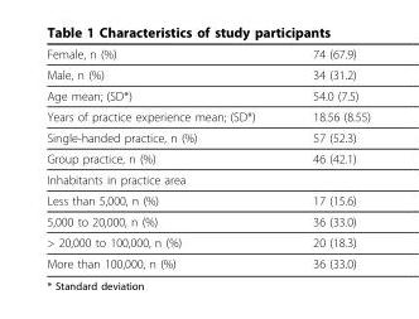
<table><thead><tr><td>Female, n (%)</td><td>74 (67.9)</td></tr></thead><tbody><tr><td>Male, n (%)</td><td>34 (31.2)</td></tr><tr><td>Age mean; (SD*)</td><td>54.0 (7.5)</td></tr><tr><td>Years of practice experience mean; (SD*)</td><td>18.56 (8.55)</td></tr><tr><td>Single-handed practice, n (%)</td><td>57 (52.3)</td></tr><tr><td>Group practice, n (%)</td><td>46 (42.1)</td></tr><tr><td colspan="2">Inhabitants in practice area</td></tr><tr><td>Less than 5,000, n (%)</td><td>17 (15.6)</td></tr><tr><td>5,000 to 20,000, n (%)</td><td>36 (33.0)</td></tr><tr><td>&gt; 20,000 to 100,000, n (%)</td><td>20 (18.3)</td></tr><tr><td>More than 100,000, n (%)</td><td>36 (33.0)</td></tr></tbody></table>